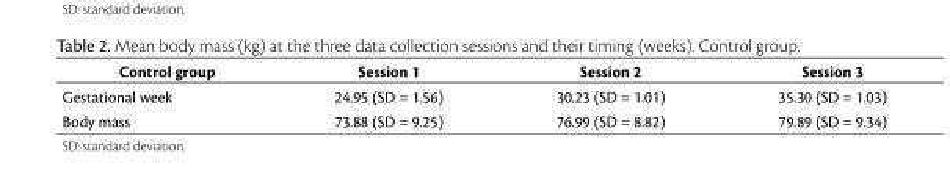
<table><thead><tr><td>Control group</td><td>Session 1</td><td>Session 2</td><td>Session 3</td></tr></thead><tbody><tr><td>Gestational week</td><td>24.95 (SD = 1.56)</td><td>30.23 (SD = 1.01)</td><td>35.30 (SD = 1.03)</td></tr><tr><td>Body mass</td><td>73.88 (SD = 9.25)</td><td>76.99 (SD = 8.82)</td><td>79.89 (SD = 9.34)</td></tr></tbody></table>